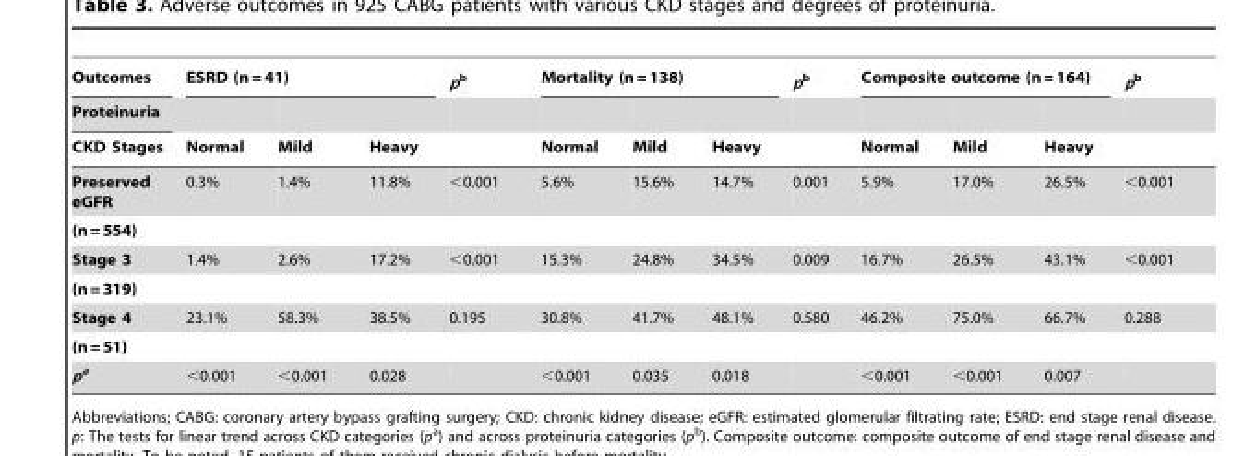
<table><thead><tr><td rowspan="3">Outcomes Proteinuria CKD Stages</td><td colspan="3">ESRD (n = 41)</td><td rowspan="3">p<sup>b</sup></td><td colspan="3">Mortality (n = 138)</td><td rowspan="3">p<sup>b</sup></td><td colspan="3">Composite outcome (n = 164)</td><td rowspan="3">p<sup>b</sup></td></tr><tr><td rowspan="2">Normal</td><td rowspan="2">Mild</td><td rowspan="2">Heavy</td><td rowspan="2">Normal</td><td rowspan="2">Mild</td><td rowspan="2">Heavy</td><td rowspan="2">Normal</td><td rowspan="2">Mild</td><td rowspan="2">Heavy</td></tr><tr></tr></thead><tbody><tr><td>Preserved eGFR</td><td>0.3%</td><td>1.4%</td><td>11.8%</td><td>&lt;0.001</td><td>5.6%</td><td>15.6%</td><td>14.7%</td><td>0.001</td><td>5.9%</td><td>17.0%</td><td>26.5%</td><td>&lt;0.001</td></tr><tr><td colspan="13">(n = 554)</td></tr><tr><td>Stage 3</td><td>1.4%</td><td>2.6%</td><td>17.2%</td><td>&lt;0.001</td><td>15.3%</td><td>24.8%</td><td>34.5%</td><td>0.009</td><td>16.7%</td><td>26.5%</td><td>43.1%</td><td>&lt;0.001</td></tr><tr><td colspan="13">(n = 319)</td></tr><tr><td>Stage 4</td><td>23.1%</td><td>58.3%</td><td>38.5%</td><td>0.195</td><td>30.8%</td><td>41.7%</td><td>48.1%</td><td>0.580</td><td>46.2%</td><td>75.0%</td><td>66.7%</td><td>0.288</td></tr><tr><td colspan="13">(n = 51)</td></tr><tr><td>p<sup>a</sup></td><td>&lt;0.001</td><td>&lt;0.001</td><td>0.028</td><td></td><td>&lt;0.001</td><td>0.035</td><td>0.018</td><td></td><td>&lt;0.001</td><td>&lt;0.001</td><td>0.007</td><td></td></tr></tbody></table>